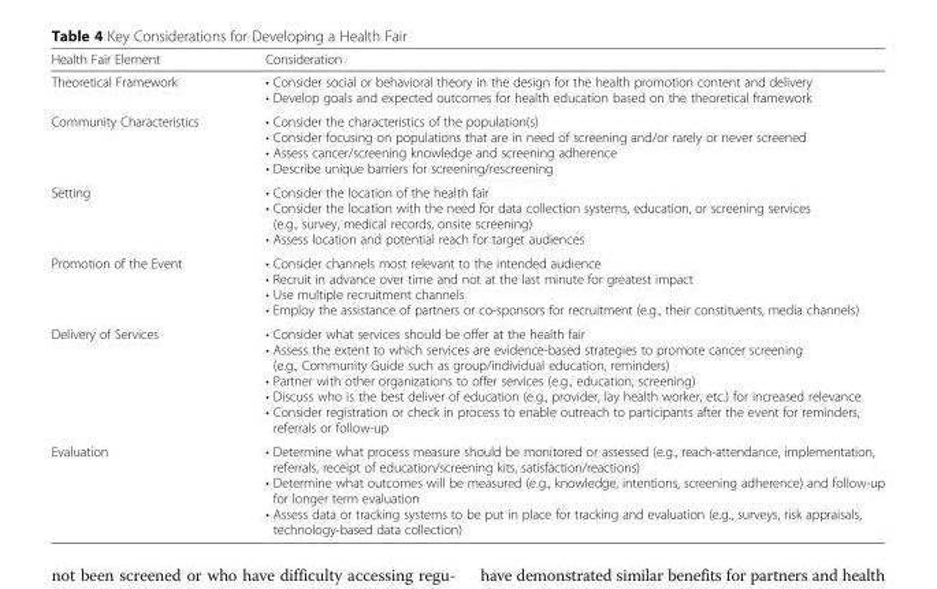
<table><thead><tr><td>Health Fair Element</td><td>Consideration</td></tr></thead><tbody><tr><td>Theoretical Framework</td><td>• Consider social or behavioral theory in the design for the health promotion content and delivery • Develop goals and expected outcomes for health education based on the theoretical framework</td></tr><tr><td>Community Characteristics</td><td>• Consider the characteristics of the population(s) • Consider focusing on populations that are in need of screening and/or rarely or never screened • Assess cancer/screening knowledge and screening adherence • Describe unique barriers for screening/rescreening</td></tr><tr><td>Setting</td><td>• Consider the location of the health fair • Consider the location with the need for data collection systems, education, or screening services (e.g., survey, medical records, onsite screening) • Assess location and potential reach for target audiences</td></tr><tr><td>Promotion of the Event</td><td>• Consider channels most relevant to the intended audience • Recruit in advance over time and not at the last minute for greatest impact • Use multiple recruitment channels • Employ the assistance of partners or co-sponsors for recruitment (e.g., their constituents, media channels)</td></tr><tr><td>Delivery of Services</td><td>• Consider what services should be offer at the health fair • Assess the extent to which services are evidence-based strategies to promote cancer screening (e.g., Community Guide such as group/individual education, reminders) • Partner with other organizations to offer services (e.g., education, screening) • Discuss who is the best deliver of education (e.g., provider, lay health worker, etc.) for increased relevance • Consider registration or check in process to enable outreach to participants after the event for reminders, referrals or follow-up</td></tr><tr><td>Evaluation</td><td>• Determine what process measure should be monitored or assessed (e.g., reach-attendance, implementation, referrals, receipt of education/screening kits, satisfaction/reactions) • Determine what outcomes will be measured (e.g., knowledge, intentions, screening adherence) and follow-up for longer term evaluation • Assess data or tracking systems to be put in place for tracking and evaluation (e.g., surveys, risk appraisals, technology-based data collection)</td></tr></tbody></table>